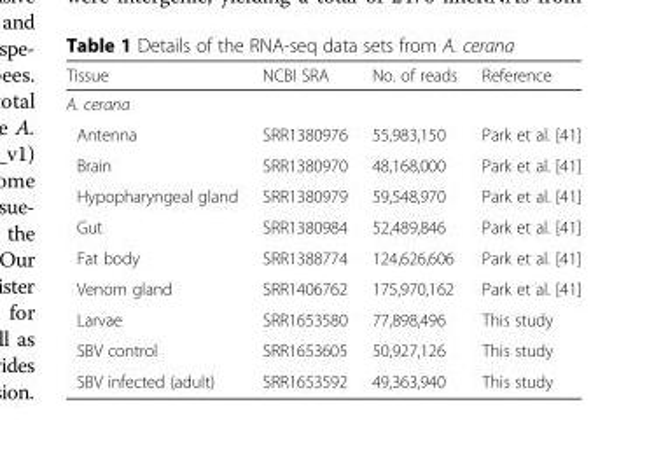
<table><thead><tr><td>Tissue</td><td>NCBI SRA</td><td>No. of reads</td><td>Reference</td></tr></thead><tbody><tr><td colspan="4">A. cerana</td></tr><tr><td>Antenna</td><td>SRR1380976</td><td>55,983,150</td><td>Park et al. [41]</td></tr><tr><td>Brain</td><td>SRR1380970</td><td>48,168,000</td><td>Park et al. [41]</td></tr><tr><td>Hypopharyngeal gland</td><td>SRR1380979</td><td>59,548,970</td><td>Park et al. [41]</td></tr><tr><td>Gut</td><td>SRR1380984</td><td>52,489,846</td><td>Park et al. [41]</td></tr><tr><td>Fat body</td><td>SRR1388774</td><td>124,626,606</td><td>Park et al. [41]</td></tr><tr><td>Venom gland</td><td>SRR1406762</td><td>175,970,162</td><td>Park et al. [41]</td></tr><tr><td>Larvae</td><td>SRR1653580</td><td>77,898,496</td><td>This study</td></tr><tr><td>SBV control</td><td>SRR1653605</td><td>50,927,126</td><td>This study</td></tr><tr><td>SBV infected (adult)</td><td>SRR1653592</td><td>49,363,940</td><td>This study</td></tr></tbody></table>